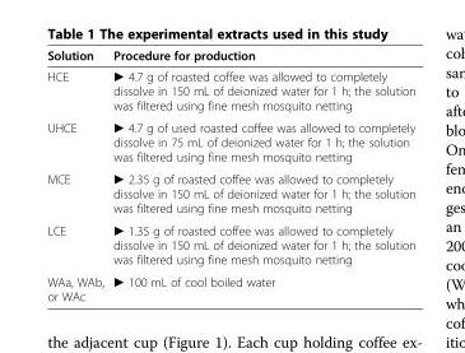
<table><thead><tr><td>Solution</td><td>Procedure for production</td></tr></thead><tbody><tr><td>HCE</td><td>► 4.7 g of roasted coffee was allowed to completely dissolve in 150 mL of deionized water for 1 h; the solution was filtered using fine mesh mosquito netting</td></tr><tr><td>UHCE</td><td>► 4.7 g of used roasted coffee was allowed to completely dissolve in 75 mL of deionized water for 1 h; the solution was filtered using fine mesh mosquito netting</td></tr><tr><td>MCE</td><td>► 2.35 g of roasted coffee was allowed to completely dissolve in 150 mL of deionized water for 1 h; the solution was filtered using fine mesh mosquito netting</td></tr><tr><td>LCE</td><td>► 1.35 g of roasted coffee was allowed to completely dissolve in 150 mL of deionized water for 1 h; the solution was filtered using fine mesh mosquito netting</td></tr><tr><td>WAa, WAb, or WAc</td><td>► 100 mL of cool boiled water</td></tr></tbody></table>